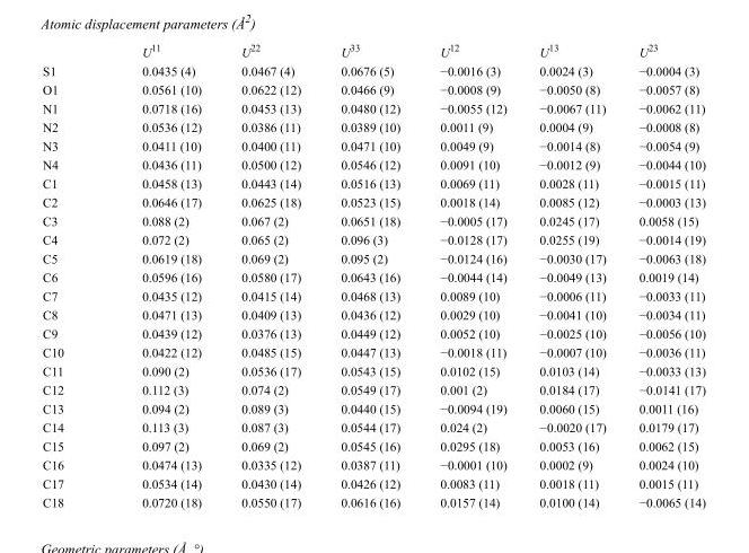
<table><thead><tr><td></td><td>U<sup>11</sup></td><td>U<sup>22</sup></td><td>U<sup>33</sup></td><td>U<sup>12</sup></td><td>U<sup>13</sup></td><td>U<sup>23</sup></td></tr></thead><tbody><tr><td>S1</td><td>0.0435 (4)</td><td>0.0467 (4)</td><td>0.0676 (5)</td><td>−0.0016 (3)</td><td>0.0024 (3)</td><td>−0.0004 (3)</td></tr><tr><td>O1</td><td>0.0561 (10)</td><td>0.0622 (12)</td><td>0.0466 (9)</td><td>−0.0008 (9)</td><td>−0.0050 (8)</td><td>−0.0057 (8)</td></tr><tr><td>N1</td><td>0.0718 (16)</td><td>0.0453 (13)</td><td>0.0480 (12)</td><td>−0.0055 (12)</td><td>−0.0067 (11)</td><td>−0.0062 (11)</td></tr><tr><td>N2</td><td>0.0536 (12)</td><td>0.0386 (11)</td><td>0.0389 (10)</td><td>0.0011 (9)</td><td>0.0004 (9)</td><td>−0.0008 (8)</td></tr><tr><td>N3</td><td>0.0411 (10)</td><td>0.0400 (11)</td><td>0.0471 (10)</td><td>0.0049 (9)</td><td>−0.0014 (8)</td><td>−0.0054 (9)</td></tr><tr><td>N4</td><td>0.0436 (11)</td><td>0.0500 (12)</td><td>0.0546 (12)</td><td>0.0091 (10)</td><td>−0.0012 (9)</td><td>−0.0044 (10)</td></tr><tr><td>C1</td><td>0.0458 (13)</td><td>0.0443 (14)</td><td>0.0516 (13)</td><td>0.0069 (11)</td><td>0.0028 (11)</td><td>−0.0015 (11)</td></tr><tr><td>C2</td><td>0.0646 (17)</td><td>0.0625 (18)</td><td>0.0523 (15)</td><td>0.0018 (14)</td><td>0.0085 (12)</td><td>−0.0003 (13)</td></tr><tr><td>C3</td><td>0.088 (2)</td><td>0.067 (2)</td><td>0.0651 (18)</td><td>−0.0005 (17)</td><td>0.0245 (17)</td><td>0.0058 (15)</td></tr><tr><td>C4</td><td>0.072 (2)</td><td>0.065 (2)</td><td>0.096 (3)</td><td>−0.0128 (17)</td><td>0.0255 (19)</td><td>−0.0014 (19)</td></tr><tr><td>C5</td><td>0.0619 (18)</td><td>0.069 (2)</td><td>0.095 (2)</td><td>−0.0124 (16)</td><td>−0.0030 (17)</td><td>−0.0063 (18)</td></tr><tr><td>C6</td><td>0.0596 (16)</td><td>0.0580 (17)</td><td>0.0643 (16)</td><td>−0.0044 (14)</td><td>−0.0049 (13)</td><td>0.0019 (14)</td></tr><tr><td>C7</td><td>0.0435 (12)</td><td>0.0415 (14)</td><td>0.0468 (13)</td><td>0.0089 (10)</td><td>−0.0006 (11)</td><td>−0.0033 (11)</td></tr><tr><td>C8</td><td>0.0471 (13)</td><td>0.0409 (13)</td><td>0.0436 (12)</td><td>0.0029 (10)</td><td>−0.0041 (10)</td><td>−0.0034 (11)</td></tr><tr><td>C9</td><td>0.0439 (12)</td><td>0.0376 (13)</td><td>0.0449 (12)</td><td>0.0052 (10)</td><td>−0.0025 (10)</td><td>−0.0056 (10)</td></tr><tr><td>C10</td><td>0.0422 (12)</td><td>0.0485 (15)</td><td>0.0447 (13)</td><td>−0.0018 (11)</td><td>−0.0007 (10)</td><td>−0.0036 (11)</td></tr><tr><td>C11</td><td>0.090 (2)</td><td>0.0536 (17)</td><td>0.0543 (15)</td><td>0.0102 (15)</td><td>0.0103 (14)</td><td>−0.0033 (13)</td></tr><tr><td>C12</td><td>0.112 (3)</td><td>0.074 (2)</td><td>0.0549 (17)</td><td>0.001 (2)</td><td>0.0184 (17)</td><td>−0.0141 (17)</td></tr><tr><td>C13</td><td>0.094 (2)</td><td>0.089 (3)</td><td>0.0440 (15)</td><td>−0.0094 (19)</td><td>0.0060 (15)</td><td>0.0011 (16)</td></tr><tr><td>C14</td><td>0.113 (3)</td><td>0.087 (3)</td><td>0.0544 (17)</td><td>0.024 (2)</td><td>−0.0020 (17)</td><td>0.0179 (17)</td></tr><tr><td>C15</td><td>0.097 (2)</td><td>0.069 (2)</td><td>0.0545 (16)</td><td>0.0295 (18)</td><td>0.0053 (16)</td><td>0.0062 (15)</td></tr><tr><td>C16</td><td>0.0474 (13)</td><td>0.0335 (12)</td><td>0.0387 (11)</td><td>−0.0001 (10)</td><td>0.0002 (9)</td><td>0.0024 (10)</td></tr><tr><td>C17</td><td>0.0534 (14)</td><td>0.0430 (14)</td><td>0.0426 (12)</td><td>0.0083 (11)</td><td>0.0018 (11)</td><td>0.0015 (11)</td></tr><tr><td>C18</td><td>0.0720 (18)</td><td>0.0550 (17)</td><td>0.0616 (16)</td><td>0.0157 (14)</td><td>0.0100 (14)</td><td>−0.0065 (14)</td></tr></tbody></table>